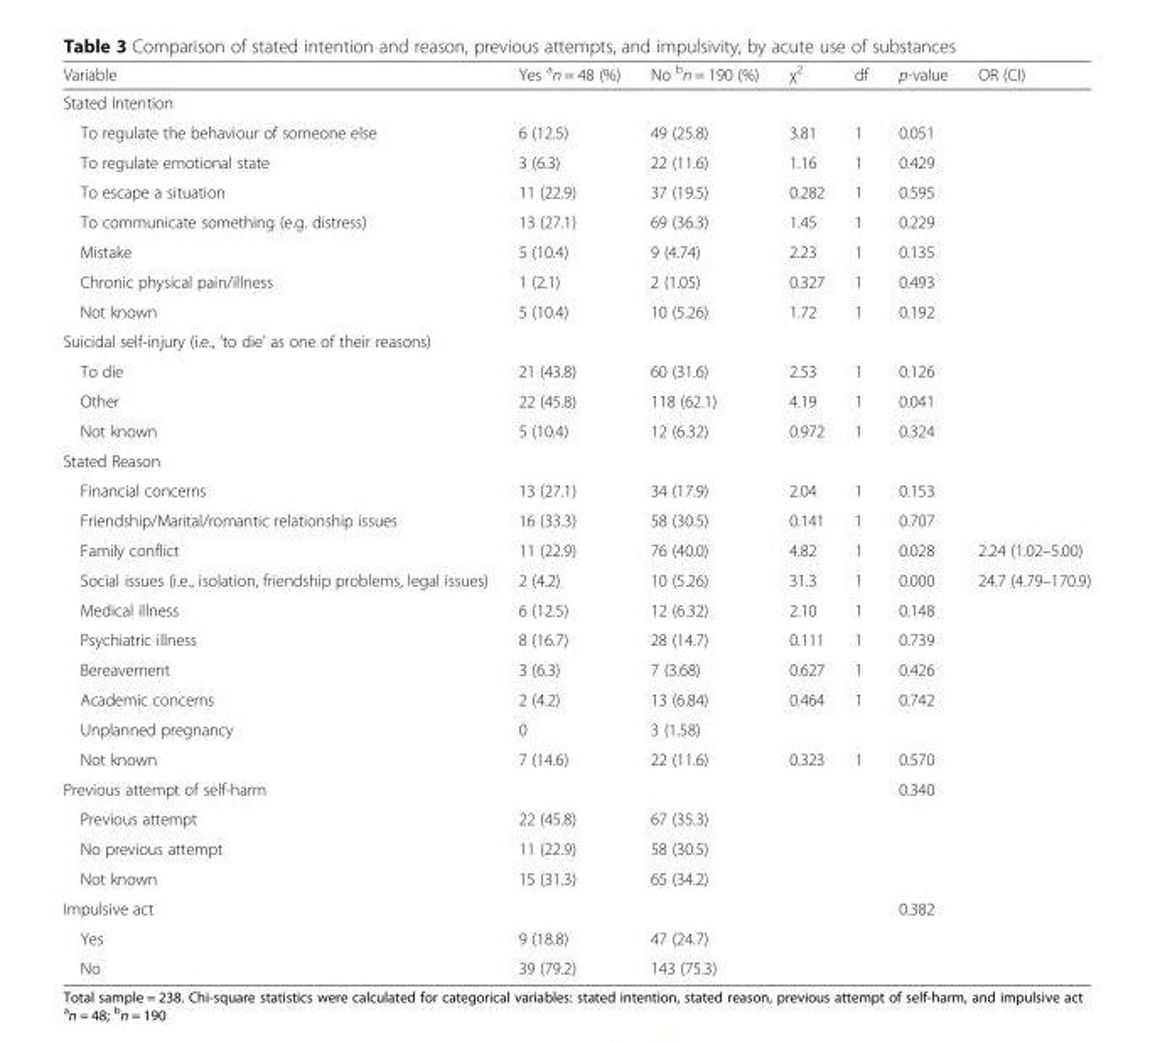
<table><thead><tr><td>Variable</td><td>Yes <sup>a</sup>n = 48 (%)</td><td>No <sup>b</sup>n = 190 (%)</td><td>χ<sup>2</sup></td><td>df</td><td>p-value</td><td>OR (CI)</td></tr></thead><tbody><tr><td colspan="7">Stated Intention</td></tr><tr><td>To regulate the behaviour of someone else</td><td>6 (12.5)</td><td>49 (25.8)</td><td>3.81</td><td>1</td><td>0.051</td><td></td></tr><tr><td>To regulate emotional state</td><td>3 (6.3)</td><td>22 (11.6)</td><td>1.16</td><td>1</td><td>0.429</td><td></td></tr><tr><td>To escape a situation</td><td>11 (22.9)</td><td>37 (19.5)</td><td>0.282</td><td>1</td><td>0.595</td><td></td></tr><tr><td>To communicate something (e.g. distress)</td><td>13 (27.1)</td><td>69 (36.3)</td><td>1.45</td><td>1</td><td>0.229</td><td></td></tr><tr><td>Mistake</td><td>5 (10.4)</td><td>9 (4.74)</td><td>2.23</td><td>1</td><td>0.135</td><td></td></tr><tr><td>Chronic physical pain/illness</td><td>1 (2.1)</td><td>2 (1.05)</td><td>0.327</td><td>1</td><td>0.493</td><td></td></tr><tr><td>Not known</td><td>5 (10.4)</td><td>10 (5.26)</td><td>1.72</td><td>1</td><td>0.192</td><td></td></tr><tr><td colspan="7">Suicidal self-injury (i.e., ‘to die’ as one of their reasons)</td></tr><tr><td>To die</td><td>21 (43.8)</td><td>60 (31.6)</td><td>2.53</td><td>1</td><td>0.126</td><td></td></tr><tr><td>Other</td><td>22 (45.8)</td><td>118 (62.1)</td><td>4.19</td><td>1</td><td>0.041</td><td></td></tr><tr><td>Not known</td><td>5 (10.4)</td><td>12 (6.32)</td><td>0.972</td><td>1</td><td>0.324</td><td></td></tr><tr><td colspan="7">Stated Reason</td></tr><tr><td>Financial concerns</td><td>13 (27.1)</td><td>34 (17.9)</td><td>2.04</td><td>1</td><td>0.153</td><td></td></tr><tr><td>Friendship/Marital/romantic relationship issues</td><td>16 (33.3)</td><td>58 (30.5)</td><td>0.141</td><td>1</td><td>0.707</td><td></td></tr><tr><td>Family conflict</td><td>11 (22.9)</td><td>76 (40.0)</td><td>4.82</td><td>1</td><td>0.028</td><td>2.24 (1.02–5.00)</td></tr><tr><td>Social issues (i.e., isolation, friendship problems, legal issues)</td><td>2 (4.2)</td><td>10 (5.26)</td><td>31.3</td><td>1</td><td>0.000</td><td>24.7 (4.79–170.9)</td></tr><tr><td>Medical illness</td><td>6 (12.5)</td><td>12 (6.32)</td><td>2.10</td><td>1</td><td>0.148</td><td></td></tr><tr><td>Psychiatric illness</td><td>8 (16.7)</td><td>28 (14.7)</td><td>0.111</td><td>1</td><td>0.739</td><td></td></tr><tr><td>Bereavement</td><td>3 (6.3)</td><td>7 (3.68)</td><td>0.627</td><td>1</td><td>0.426</td><td></td></tr><tr><td>Academic concerns</td><td>2 (4.2)</td><td>13 (6.84)</td><td>0.464</td><td>1</td><td>0.742</td><td></td></tr><tr><td>Unplanned pregnancy</td><td>0</td><td>3 (1.58)</td><td></td><td></td><td></td><td></td></tr><tr><td>Not known</td><td>7 (14.6)</td><td>22 (11.6)</td><td>0.323</td><td>1</td><td>0.570</td><td></td></tr><tr><td>Previous attempt of self-harm</td><td></td><td></td><td></td><td></td><td>0.340</td><td></td></tr><tr><td>Previous attempt</td><td>22 (45.8)</td><td>67 (35.3)</td><td></td><td></td><td></td><td></td></tr><tr><td>No previous attempt</td><td>11 (22.9)</td><td>58 (30.5)</td><td></td><td></td><td></td><td></td></tr><tr><td>Not known</td><td>15 (31.3)</td><td>65 (34.2)</td><td></td><td></td><td></td><td></td></tr><tr><td>Impulsive act</td><td></td><td></td><td></td><td></td><td>0.382</td><td></td></tr><tr><td>Yes</td><td>9 (18.8)</td><td>47 (24.7)</td><td></td><td></td><td></td><td></td></tr><tr><td>No</td><td>39 (79.2)</td><td>143 (75.3)</td><td></td><td></td><td></td><td></td></tr></tbody></table>